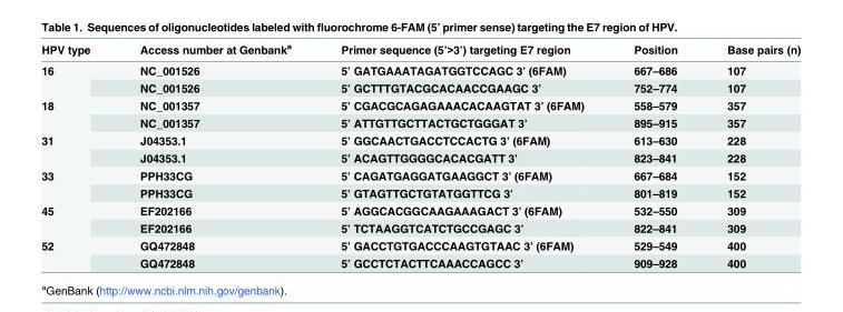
<table><thead><tr><td>HPV type</td><td>Access number at Genbank<sup>a</sup></td><td>Primer sequence (5’&gt;3’) targeting E7 region</td><td>Position</td><td>Base pairs (n)</td></tr></thead><tbody><tr><td rowspan="2">16</td><td>NC_001526</td><td>5’ GATGAAATAGATGGTCCAGC 3’ (6FAM)</td><td>667–686</td><td>107</td></tr><tr><td>NC_001526</td><td>5’ GCTTTGTACGCACAACCGAAGC 3’</td><td>752–774</td><td>107</td></tr><tr><td rowspan="2">18</td><td>NC_001357</td><td>5’ CGACGCAGAGAAACACAAGTAT 3’ (6FAM)</td><td>558–579</td><td>357</td></tr><tr><td>NC_001357</td><td>5’ ATTGTTGCTTACTGCTGGGAT 3’</td><td>895–915</td><td>357</td></tr><tr><td rowspan="2">31</td><td>J04353.1</td><td>5’ GGCAACTGACCTCCACTG 3’ (6FAM)</td><td>613–630</td><td>228</td></tr><tr><td>J04353.1</td><td>5’ ACAGTTGGGGCACACGATT 3’</td><td>823–841</td><td>228</td></tr><tr><td rowspan="2">33</td><td>PPH33CG</td><td>5’ CAGATGAGGATGAAGGCT 3’ (6FAM)</td><td>667–684</td><td>152</td></tr><tr><td>PPH33CG</td><td>5’ GTAGTTGCTGTATGGTTCG 3’</td><td>801–819</td><td>152</td></tr><tr><td rowspan="2">45</td><td>EF202166</td><td>5’ AGGCACGGCAAGAAAGACT 3’ (6FAM)</td><td>532–550</td><td>309</td></tr><tr><td>EF202166</td><td>5’ TCTAAGGTCATCTGCCGAGC 3’</td><td>822–841</td><td>309</td></tr><tr><td rowspan="2">52</td><td>GQ472848</td><td>5’ GACCTGTGACCCAAGTGTAAC 3’ (6FAM)</td><td>529–549</td><td>400</td></tr><tr><td>GQ472848</td><td>5’ GCCTCTACTTCAAACCAGCC 3’</td><td>909–928</td><td>400</td></tr></tbody></table>